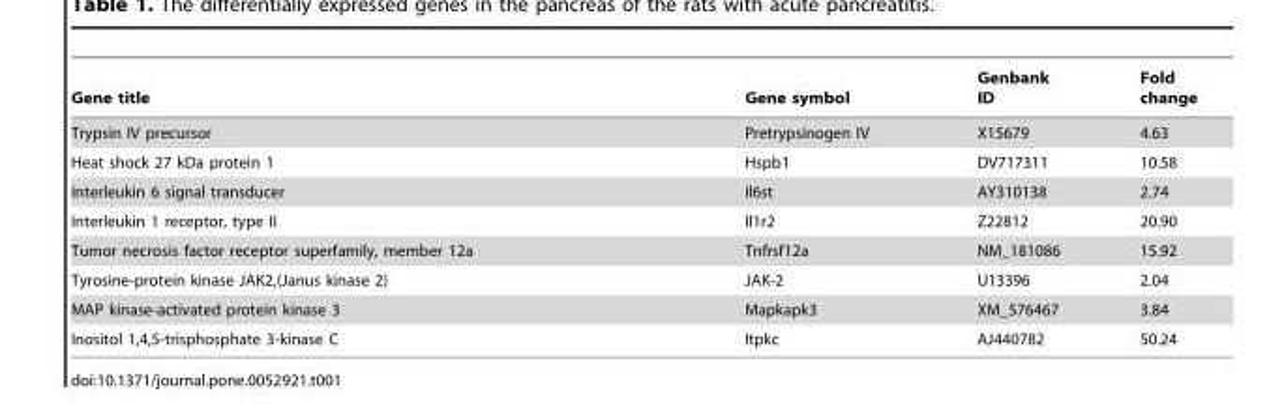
<table><thead><tr><td>Gene title</td><td>Gene symbol</td><td>Genbank ID</td><td>Fold change</td></tr></thead><tbody><tr><td>Trypsin IV precursor</td><td>Pretrypsinogen IV</td><td>X15679</td><td>4.63</td></tr><tr><td>Heat shock 27 kDa protein 1</td><td>Hspb1</td><td>DV717311</td><td>10.58</td></tr><tr><td>Interleukin 6 signal transducer</td><td>Il6st</td><td>AY310138</td><td>2.74</td></tr><tr><td>Interleukin 1 receptor, type II</td><td>Il1r2</td><td>Z22812</td><td>20.90</td></tr><tr><td>Tumor necrosis factor receptor superfamily, member 12a</td><td>Tnfrsf12a</td><td>NM_181086</td><td>15.92</td></tr><tr><td>Tyrosine-protein kinase JAK2,(Janus kinase 2)</td><td>JAK-2</td><td>U13396</td><td>2.04</td></tr><tr><td>MAP kinase-activated protein kinase 3</td><td>Mapkapk3</td><td>XM_576467</td><td>3.84</td></tr><tr><td>Inositol 1,4,5-trisphosphate 3-kinase C</td><td>Itpkc</td><td>AJ440782</td><td>50.24</td></tr></tbody></table>